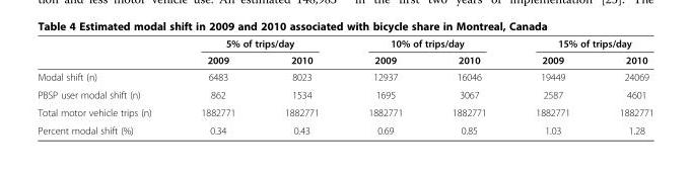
<table><thead><tr><td rowspan="2"></td><td colspan="2">5% of trips/day</td><td colspan="2">10% of trips/day</td><td colspan="2">15% of trips/day</td></tr><tr><td>2009</td><td>2010</td><td>2009</td><td>2010</td><td>2009</td><td>2010</td></tr></thead><tbody><tr><td>Modal shift (n)</td><td>6483</td><td>8023</td><td>12937</td><td>16046</td><td>19449</td><td>24069</td></tr><tr><td>PBSP user modal shift (n)</td><td>862</td><td>1534</td><td>1695</td><td>3067</td><td>2587</td><td>4601</td></tr><tr><td>Total motor vehicle trips (n)</td><td>1882771</td><td>1882771</td><td>1882771</td><td>1882771</td><td>1882771</td><td>1882771</td></tr><tr><td>Percent modal shift (%)</td><td>0.34</td><td>0.43</td><td>0.69</td><td>0.85</td><td>1.03</td><td>1.28</td></tr></tbody></table>